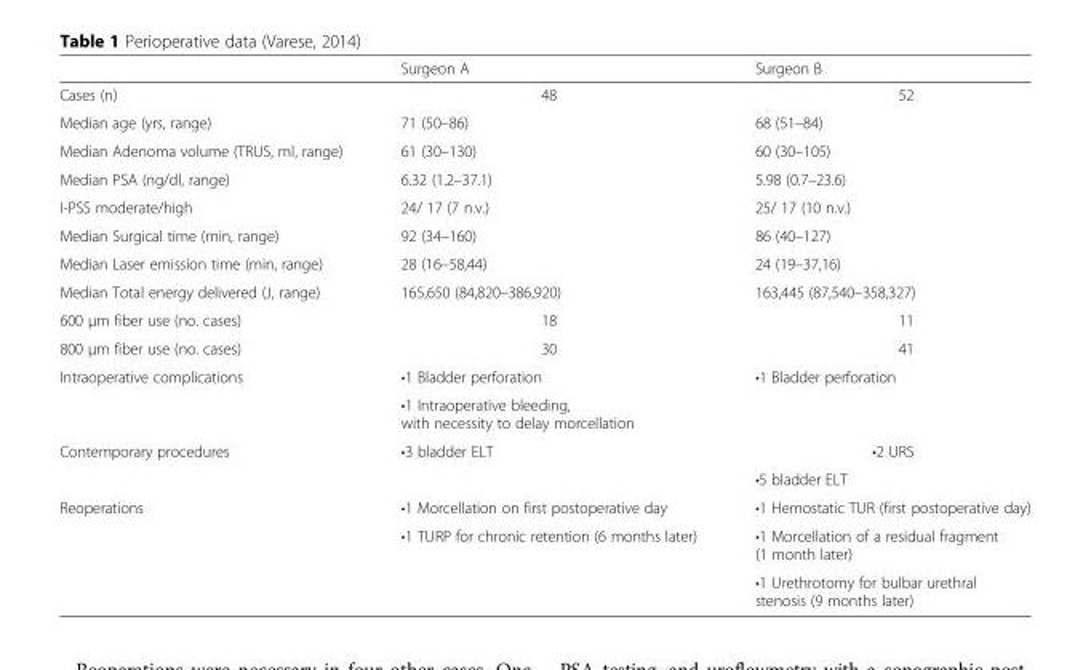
<table><thead><tr><td></td><td>Surgeon A</td><td>Surgeon B</td></tr></thead><tbody><tr><td>Cases (n)</td><td>48</td><td>52</td></tr><tr><td>Median age (yrs, range)</td><td>71 (50–86)</td><td>68 (51–84)</td></tr><tr><td>Median Adenoma volume (TRUS, ml, range)</td><td>61 (30–130)</td><td>60 (30–105)</td></tr><tr><td>Median PSA (ng/dl, range)</td><td>6.32 (1.2–37.1)</td><td>5.98 (0.7–23.6)</td></tr><tr><td>I-PSS moderate/high</td><td>24/ 17 (7 n.v.)</td><td>25/ 17 (10 n.v.)</td></tr><tr><td>Median Surgical time (min, range)</td><td>92 (34–160)</td><td>86 (40–127)</td></tr><tr><td>Median Laser emission time (min, range)</td><td>28 (16–58,44)</td><td>24 (19–37,16)</td></tr><tr><td>Median Total energy delivered (J, range)</td><td>165,650 (84,820–386,920)</td><td>163,445 (87,540–358,327)</td></tr><tr><td>600 μm fiber use (no. cases)</td><td>18</td><td>11</td></tr><tr><td>800 μm fiber use (no. cases)</td><td>30</td><td>41</td></tr><tr><td rowspan="2">Intraoperative complications</td><td>•1 Bladder perforation</td><td rowspan="2">•1 Bladder perforation</td></tr><tr><td>•1 Intraoperative bleeding, with necessity to delay morcellation</td></tr><tr><td rowspan="2">Contemporary procedures</td><td rowspan="2">•3 bladder ELT</td><td>•2 URS</td></tr><tr><td>•5 bladder ELT</td></tr><tr><td rowspan="3">Reoperations</td><td>•1 Morcellation on first postoperative day</td><td>•1 Hemostatic TUR (first postoperative day)</td></tr><tr><td rowspan="2">•1 TURP for chronic retention (6 months later)</td><td>•1 Morcellation of a residual fragment (1 month later)</td></tr><tr><td>•1 Urethrotomy for bulbar urethral stenosis (9 months later)</td></tr></tbody></table>